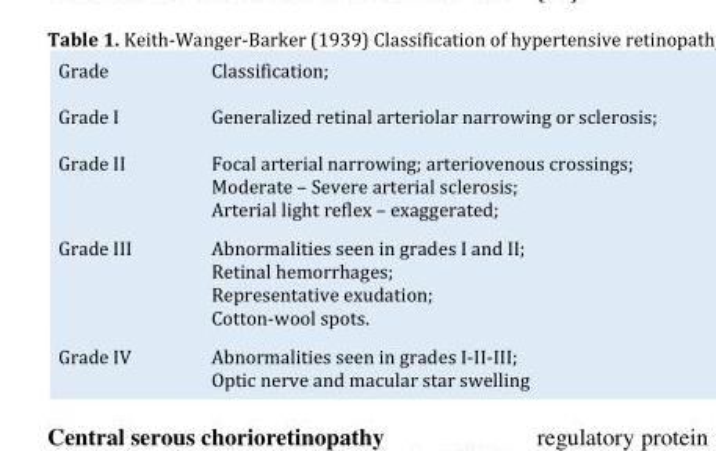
<table><tbody><tr><td>Grade</td><td>Classification;</td></tr><tr><td>Grade I</td><td>Generalized retinal arteriolar narrowing or sclerosis;</td></tr><tr><td>Grade II</td><td>Focal arterial narrowing; arteriovenous crossings; Moderate – Severe arterial sclerosis; Arterial light reflex – exaggerated;</td></tr><tr><td>Grade III</td><td>Abnormalities seen in grades I and II; Retinal hemorrhages; Representative exudation; Cotton-wool spots.</td></tr><tr><td>Grade IV</td><td>Abnormalities seen in grades I-II-III; Optic nerve and macular star swelling</td></tr></tbody></table>